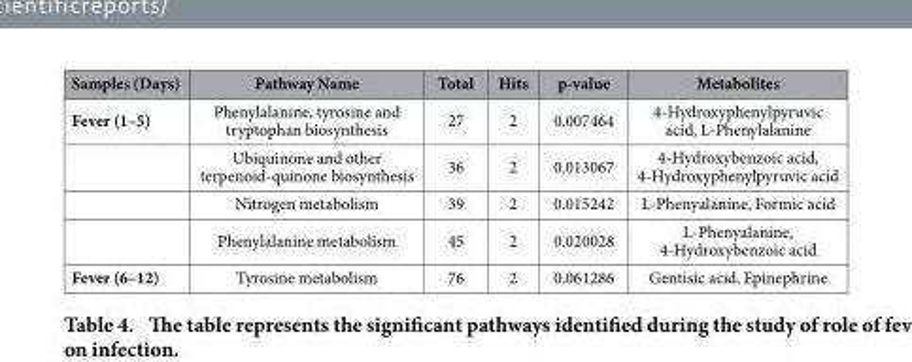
<table><thead><tr><td>Samples (Days)</td><td>Pathway Name</td><td>Total</td><td>Hits</td><td>p-value</td><td>Metabolites</td></tr></thead><tbody><tr><td rowspan="4">Fever (1–5)</td><td>Phenylalanine, tyrosine and tryptophan biosynthesis</td><td>27</td><td>2</td><td>0.007464</td><td>4-Hydroxyphenylpyruvic acid, L-Phenylalanine</td></tr><tr><td>Ubiquinone and other terpenoid-quinone biosynthesis</td><td>36</td><td>2</td><td>0.013067</td><td>4-Hydroxybenzoic acid, 4-Hydroxyphenylpyruvic acid</td></tr><tr><td>Nitrogen metabolism</td><td>39</td><td>2</td><td>0.015242</td><td>L-Phenyalanine, Formic acid</td></tr><tr><td>Phenylalanine metabolism</td><td>45</td><td>2</td><td>0.020028</td><td>L-Phenyalanine, 4-Hydroxybenzoic acid</td></tr><tr><td>Fever (6–12)</td><td>Tyrosine metabolism</td><td>76</td><td>2</td><td>0.061286</td><td>Gentisic acid, Epinephrine</td></tr></tbody></table>